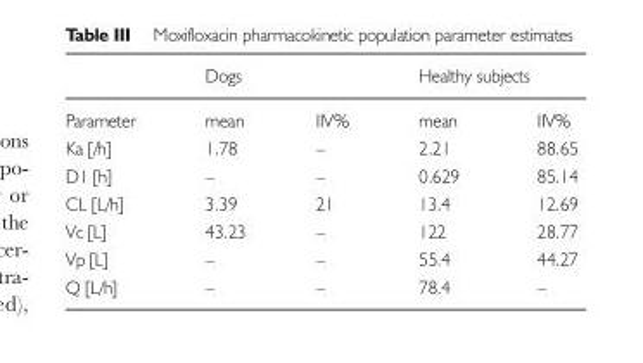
<table><thead><tr><td rowspan="2">Parameter</td><td colspan="2">Dogs</td><td colspan="2">Healthy subjects</td></tr><tr><td>mean</td><td>IIV%</td><td>mean</td><td>IIV%</td></tr></thead><tbody><tr><td>Ka [/h]</td><td>1.78</td><td>–</td><td>2.21</td><td>88.65</td></tr><tr><td>D1 [h]</td><td>–</td><td>–</td><td>0.629</td><td>85.14</td></tr><tr><td>CL [L/h]</td><td>3.39</td><td>21</td><td>13.4</td><td>12.69</td></tr><tr><td>Vc [L]</td><td>43.23</td><td>–</td><td>122</td><td>28.77</td></tr><tr><td>Vp [L]</td><td>–</td><td>–</td><td>55.4</td><td>44.27</td></tr><tr><td>Q [L/h]</td><td>–</td><td>–</td><td>78.4</td><td>–</td></tr></tbody></table>